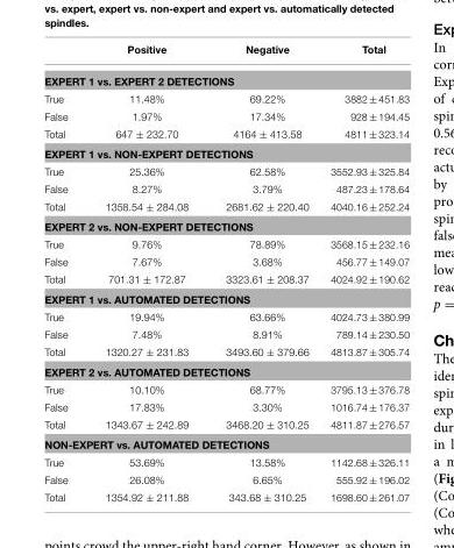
<table><thead><tr><td></td><td>Positive</td><td>Negative</td><td>Total</td></tr></thead><tbody><tr><td colspan="4">EXPERT 1 vs. EXPERT 2 DETECTIONS</td></tr><tr><td>True</td><td>11.48%</td><td>69.22%</td><td>3882 ± 451.83</td></tr><tr><td>False</td><td>1.97%</td><td>17.34%</td><td>928 ± 194.45</td></tr><tr><td>Total</td><td>647 ± 232.70</td><td>4164 ± 413.58</td><td>4811 ± 323.14</td></tr><tr><td colspan="4">EXPERT 1 vs. NON-EXPERT DETECTIONS</td></tr><tr><td>True</td><td>25.36%</td><td>62.58%</td><td>3552.93 ± 325.84</td></tr><tr><td>False</td><td>8.27%</td><td>3.79%</td><td>487.23 ± 178.64</td></tr><tr><td>Total</td><td>1358.54 ± 284.08</td><td>2681.62 ± 220.40</td><td>4040.16 ± 252.24</td></tr><tr><td colspan="4">EXPERT 2 vs. NON-EXPERT DETECTIONS</td></tr><tr><td>True</td><td>9.76%</td><td>78.89%</td><td>3568.15 ± 232.16</td></tr><tr><td>False</td><td>7.67%</td><td>3.68%</td><td>456.77 ± 149.07</td></tr><tr><td>Total</td><td>701.31 ± 172.87</td><td>3323.61 ± 208.37</td><td>4024.92 ± 190.62</td></tr><tr><td colspan="4">EXPERT 1 vs. AUTOMATED DETECTIONS</td></tr><tr><td>True</td><td>19.94%</td><td>63.66%</td><td>4024.73 ± 380.99</td></tr><tr><td>False</td><td>7.48%</td><td>8.91%</td><td>789.14 ± 230.50</td></tr><tr><td>Total</td><td>1320.27 ± 231.83</td><td>3493.60 ± 379.66</td><td>4813.87 ± 305.74</td></tr><tr><td colspan="4">EXPERT 2 vs. AUTOMATED DETECTIONS</td></tr><tr><td>True</td><td>10.10%</td><td>68.77%</td><td>3795.13 ± 376.78</td></tr><tr><td>False</td><td>17.83%</td><td>3.30%</td><td>1016.74 ± 176.37</td></tr><tr><td>Total</td><td>1343.67 ± 242.89</td><td>3468.20 ± 310.25</td><td>4811.87 ± 276.57</td></tr><tr><td colspan="4">NON-EXPERT vs. AUTOMATED DETECTIONS</td></tr><tr><td>True</td><td>53.69%</td><td>13.58%</td><td>1142.68 ± 326.11</td></tr><tr><td>False</td><td>26.08%</td><td>6.65%</td><td>555.92 ± 196.02</td></tr><tr><td>Total</td><td>1354.92 ± 211.88</td><td>343.68 ± 310.25</td><td>1698.60 ± 261.07</td></tr></tbody></table>